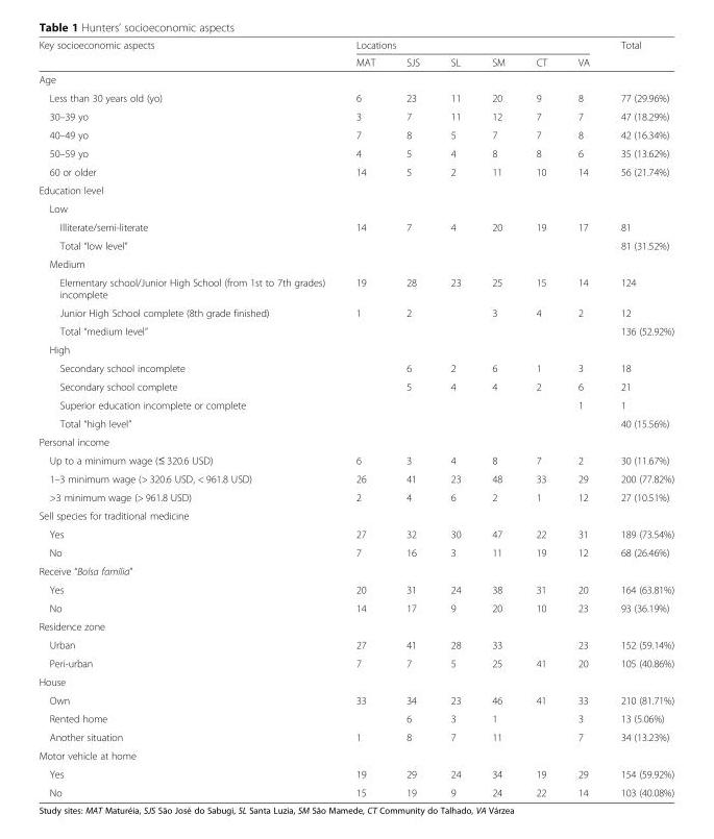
<table><thead><tr><td rowspan="2">Key socioeconomic aspects</td><td colspan="6">Locations</td><td rowspan="2">Total</td></tr><tr><td>MAT</td><td>SJS</td><td>SL</td><td>SM</td><td>CT</td><td>VA</td></tr></thead><tbody><tr><td colspan="8">Age</td></tr><tr><td>Less than 30 years old (yo)</td><td>6</td><td>23</td><td>11</td><td>20</td><td>9</td><td>8</td><td>77 (29.96%)</td></tr><tr><td>30–39 yo</td><td>3</td><td>7</td><td>11</td><td>12</td><td>7</td><td>7</td><td>47 (18.29%)</td></tr><tr><td>40–49 yo</td><td>7</td><td>8</td><td>5</td><td>7</td><td>7</td><td>8</td><td>42 (16.34%)</td></tr><tr><td>50–59 yo</td><td>4</td><td>5</td><td>4</td><td>8</td><td>8</td><td>6</td><td>35 (13.62%)</td></tr><tr><td>60 or older</td><td>14</td><td>5</td><td>2</td><td>11</td><td>10</td><td>14</td><td>56 (21.74%)</td></tr><tr><td colspan="8">Education level</td></tr><tr><td colspan="8">Low</td></tr><tr><td>Illiterate/semi-literate</td><td>14</td><td>7</td><td>4</td><td>20</td><td>19</td><td>17</td><td>81</td></tr><tr><td>Total “low level”</td><td></td><td></td><td></td><td></td><td></td><td></td><td>81 (31.52%)</td></tr><tr><td colspan="8">Medium</td></tr><tr><td>Elementary school/Junior High School (from 1st to 7th grades) incomplete</td><td>19</td><td>28</td><td>23</td><td>25</td><td>15</td><td>14</td><td>124</td></tr><tr><td>Junior High School complete (8th grade finished)</td><td>1</td><td>2</td><td></td><td>3</td><td>4</td><td>2</td><td>12</td></tr><tr><td>Total “medium level”</td><td></td><td></td><td></td><td></td><td></td><td></td><td>136 (52.92%)</td></tr><tr><td colspan="8">High</td></tr><tr><td>Secondary school incomplete</td><td></td><td>6</td><td>2</td><td>6</td><td>1</td><td>3</td><td>18</td></tr><tr><td>Secondary school complete</td><td></td><td>5</td><td>4</td><td>4</td><td>2</td><td>6</td><td>21</td></tr><tr><td>Superior education incomplete or complete</td><td></td><td></td><td></td><td></td><td></td><td>1</td><td>1</td></tr><tr><td>Total “high level”</td><td></td><td></td><td></td><td></td><td></td><td></td><td>40 (15.56%)</td></tr><tr><td colspan="8">Personal income</td></tr><tr><td>Up to a minimum wage (≤ 320.6 USD)</td><td>6</td><td>3</td><td>4</td><td>8</td><td>7</td><td>2</td><td>30 (11.67%)</td></tr><tr><td>1–3 minimum wage (&gt; 320.6 USD, &lt; 961.8 USD)</td><td>26</td><td>41</td><td>23</td><td>48</td><td>33</td><td>29</td><td>200 (77.82%)</td></tr><tr><td>&gt;3 minimum wage (&gt; 961.8 USD)</td><td>2</td><td>4</td><td>6</td><td>2</td><td>1</td><td>12</td><td>27 (10.51%)</td></tr><tr><td colspan="8">Sell species for traditional medicine</td></tr><tr><td>Yes</td><td>27</td><td>32</td><td>30</td><td>47</td><td>22</td><td>31</td><td>189 (73.54%)</td></tr><tr><td>No</td><td>7</td><td>16</td><td>3</td><td>11</td><td>19</td><td>12</td><td>68 (26.46%)</td></tr><tr><td colspan="8">Receive “Bolsa família”</td></tr><tr><td>Yes</td><td>20</td><td>31</td><td>24</td><td>38</td><td>31</td><td>20</td><td>164 (63.81%)</td></tr><tr><td>No</td><td>14</td><td>17</td><td>9</td><td>20</td><td>10</td><td>23</td><td>93 (36.19%)</td></tr><tr><td colspan="8">Residence zone</td></tr><tr><td>Urban</td><td>27</td><td>41</td><td>28</td><td>33</td><td></td><td>23</td><td>152 (59.14%)</td></tr><tr><td>Peri-urban</td><td>7</td><td>7</td><td>5</td><td>25</td><td>41</td><td>20</td><td>105 (40.86%)</td></tr><tr><td colspan="8">House</td></tr><tr><td>Own</td><td>33</td><td>34</td><td>23</td><td>46</td><td>41</td><td>33</td><td>210 (81.71%)</td></tr><tr><td>Rented home</td><td></td><td>6</td><td>3</td><td>1</td><td></td><td>3</td><td>13 (5.06%)</td></tr><tr><td>Another situation</td><td>1</td><td>8</td><td>7</td><td>11</td><td></td><td>7</td><td>34 (13.23%)</td></tr><tr><td colspan="8">Motor vehicle at home</td></tr><tr><td>Yes</td><td>19</td><td>29</td><td>24</td><td>34</td><td>19</td><td>29</td><td>154 (59.92%)</td></tr><tr><td>No</td><td>15</td><td>19</td><td>9</td><td>24</td><td>22</td><td>14</td><td>103 (40.08%)</td></tr></tbody></table>